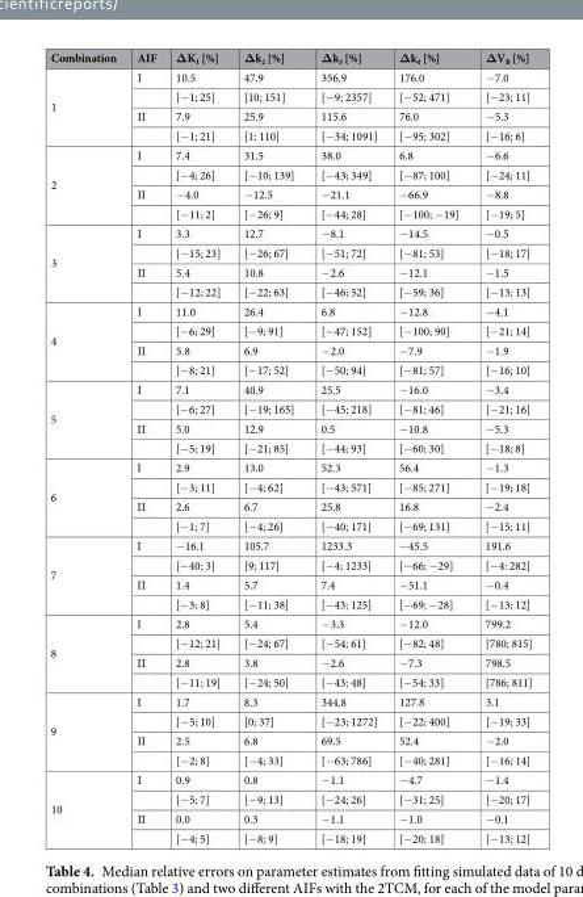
<table><thead><tr><td>Combination</td><td>AIF</td><td>ΔK<sub>1</sub> [%]</td><td>Δk<sub>2</sub> [%]</td><td>Δk<sub>3</sub> [%]</td><td>Δk<sub>4</sub> [%]</td><td>ΔV<sub>B</sub> [%]</td></tr></thead><tbody><tr><td rowspan="4">1</td><td>I</td><td>10.5</td><td>47.9</td><td>356.9</td><td>176.0</td><td>−7.0</td></tr><tr><td></td><td>[−1; 25]</td><td>[10; 151]</td><td>[−9; 2357]</td><td>[−52; 471]</td><td>[−23; 11]</td></tr><tr><td>II</td><td>7.9</td><td>25.9</td><td>115.6</td><td>76.0</td><td>−5.3</td></tr><tr><td></td><td>[−1; 21]</td><td>[1; 110]</td><td>[−34; 1091]</td><td>[−95; 302]</td><td>[−16; 6]</td></tr><tr><td rowspan="4">2</td><td>I</td><td>7.4</td><td>31.5</td><td>38.0</td><td>6.8</td><td>−6.6</td></tr><tr><td></td><td>[−4; 26]</td><td>[−10; 139]</td><td>[−43; 349]</td><td>[−87; 100]</td><td>[−24; 11]</td></tr><tr><td>II</td><td>−4.0</td><td>−12.5</td><td>−21.1</td><td>−66.9</td><td>−8.8</td></tr><tr><td></td><td>[−11; 2]</td><td>[−26; 9]</td><td>[−44; 28]</td><td>[−100; −19]</td><td>[−19; 5]</td></tr><tr><td rowspan="4">3</td><td>I</td><td>3.3</td><td>12.7</td><td>−8.1</td><td>−14.5</td><td>−0.5</td></tr><tr><td></td><td>[−15; 23]</td><td>[−26; 67]</td><td>[−51; 72]</td><td>[−81; 53]</td><td>[−18; 17]</td></tr><tr><td>II</td><td>5.4</td><td>10.8</td><td>−2.6</td><td>−12.1</td><td>−1.5</td></tr><tr><td></td><td>[−12; 22]</td><td>[−22; 63]</td><td>[−46; 52]</td><td>[−59; 36]</td><td>[−13; 13]</td></tr><tr><td rowspan="4">4</td><td>I</td><td>11.0</td><td>26.4</td><td>6.8</td><td>−12.8</td><td>−4.1</td></tr><tr><td></td><td>[−6; 29]</td><td>[−9; 91]</td><td>[−47; 152]</td><td>[−100; 90]</td><td>[−21; 14]</td></tr><tr><td>II</td><td>5.8</td><td>6.9</td><td>−2.0</td><td>−7.9</td><td>−1.9</td></tr><tr><td></td><td>[−8; 21]</td><td>[−17; 52]</td><td>[−50; 94]</td><td>[−81; 57]</td><td>[−16; 10]</td></tr><tr><td rowspan="4">5</td><td>I</td><td>7.1</td><td>40.9</td><td>25.5</td><td>−16.0</td><td>−3.4</td></tr><tr><td></td><td>[−6; 27]</td><td>[−19; 165]</td><td>[−45; 218]</td><td>[−81; 46]</td><td>[−21; 16]</td></tr><tr><td>II</td><td>5.0</td><td>12.9</td><td>0.5</td><td>−10.8</td><td>−5.3</td></tr><tr><td></td><td>[−5; 19]</td><td>[−21; 85]</td><td>[−44; 93]</td><td>[−60; 30]</td><td>[−18; 8]</td></tr><tr><td rowspan="4">6</td><td>I</td><td>2.9</td><td>13.0</td><td>52.3</td><td>56.4</td><td>−1.3</td></tr><tr><td></td><td>[−3; 11]</td><td>[−4; 62]</td><td>[−43; 571]</td><td>[−85; 271]</td><td>[−19; 18]</td></tr><tr><td>II</td><td>2.6</td><td>6.7</td><td>25.8</td><td>16.8</td><td>−2.4</td></tr><tr><td></td><td>[−1; 7]</td><td>[−4; 26]</td><td>[−40; 171]</td><td>[−69; 131]</td><td>[−15; 11]</td></tr><tr><td rowspan="4">7</td><td>I</td><td>−16.1</td><td>105.7</td><td>1233.3</td><td>−45.5</td><td>191.6</td></tr><tr><td></td><td>[−40; 3]</td><td>[9; 117]</td><td>[−4; 1233]</td><td>[−66; −29]</td><td>[−4: 282]</td></tr><tr><td>II</td><td>1.4</td><td>5.7</td><td>7.4</td><td>−51.1</td><td>−0.4</td></tr><tr><td></td><td>[−3; 8]</td><td>[−11; 38]</td><td>[−43; 125]</td><td>[−69; −28]</td><td>[−13; 12]</td></tr><tr><td rowspan="4">8</td><td>I</td><td>2.8</td><td>5.4</td><td>−3.3</td><td>−12.0</td><td>799.2</td></tr><tr><td></td><td>[−12; 21]</td><td>[−24; 67]</td><td>[−54; 61]</td><td>[−82; 48]</td><td>[780; 815]</td></tr><tr><td>II</td><td>2.8</td><td>3.8</td><td>−2.6</td><td>−7.3</td><td>798.5</td></tr><tr><td></td><td>[−11; 19]</td><td>[−24; 50]</td><td>[−43; 48]</td><td>[−54; 33]</td><td>[786; 811]</td></tr><tr><td rowspan="4">9</td><td>I</td><td>1.7</td><td>8.3</td><td>344.8</td><td>127.8</td><td>3.1</td></tr><tr><td></td><td>[−5; 10]</td><td>[0; 37]</td><td>[−23; 1272]</td><td>[−22; 400]</td><td>[−19; 33]</td></tr><tr><td>II</td><td>2.5</td><td>6.8</td><td>69.5</td><td>52.4</td><td>−2.0</td></tr><tr><td></td><td>[−2; 8]</td><td>[−4; 33]</td><td>[−63; 786]</td><td>[−40; 281]</td><td>[−16; 14]</td></tr><tr><td rowspan="4">10</td><td>I</td><td>0.9</td><td>0.8</td><td>−1.1</td><td>−4.7</td><td>−1.4</td></tr><tr><td></td><td>[−5; 7]</td><td>[−9; 13]</td><td>[−24; 26]</td><td>[−31; 25]</td><td>[−20; 17]</td></tr><tr><td>II</td><td>0.0</td><td>0.3</td><td>−1.1</td><td>−1.0</td><td>−0.1</td></tr><tr><td></td><td>[−4; 5]</td><td>[−8; 9]</td><td>[−18; 19]</td><td>[−20; 18]</td><td>[−13; 12]</td></tr></tbody></table>